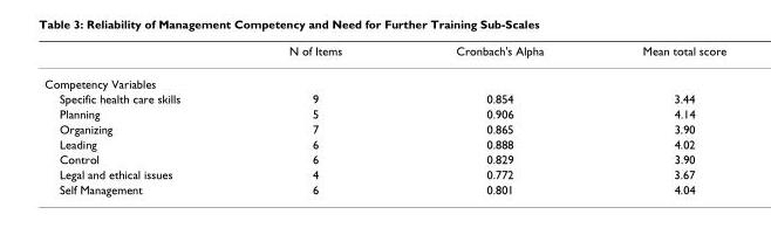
<table><thead><tr><td></td><td>N of Items</td><td>Cronbach&#x27;s Alpha</td><td>Mean total score</td></tr></thead><tbody><tr><td colspan="4">Competency Variables</td></tr><tr><td>Specific health care skills</td><td>9</td><td>0.854</td><td>3.44</td></tr><tr><td>Planning</td><td>5</td><td>0.906</td><td>4.14</td></tr><tr><td>Organizing</td><td>7</td><td>0.865</td><td>3.90</td></tr><tr><td>Leading</td><td>6</td><td>0.888</td><td>4.02</td></tr><tr><td>Control</td><td>6</td><td>0.829</td><td>3.90</td></tr><tr><td>Legal and ethical issues</td><td>4</td><td>0.772</td><td>3.67</td></tr><tr><td>Self Management</td><td>6</td><td>0.801</td><td>4.04</td></tr></tbody></table>